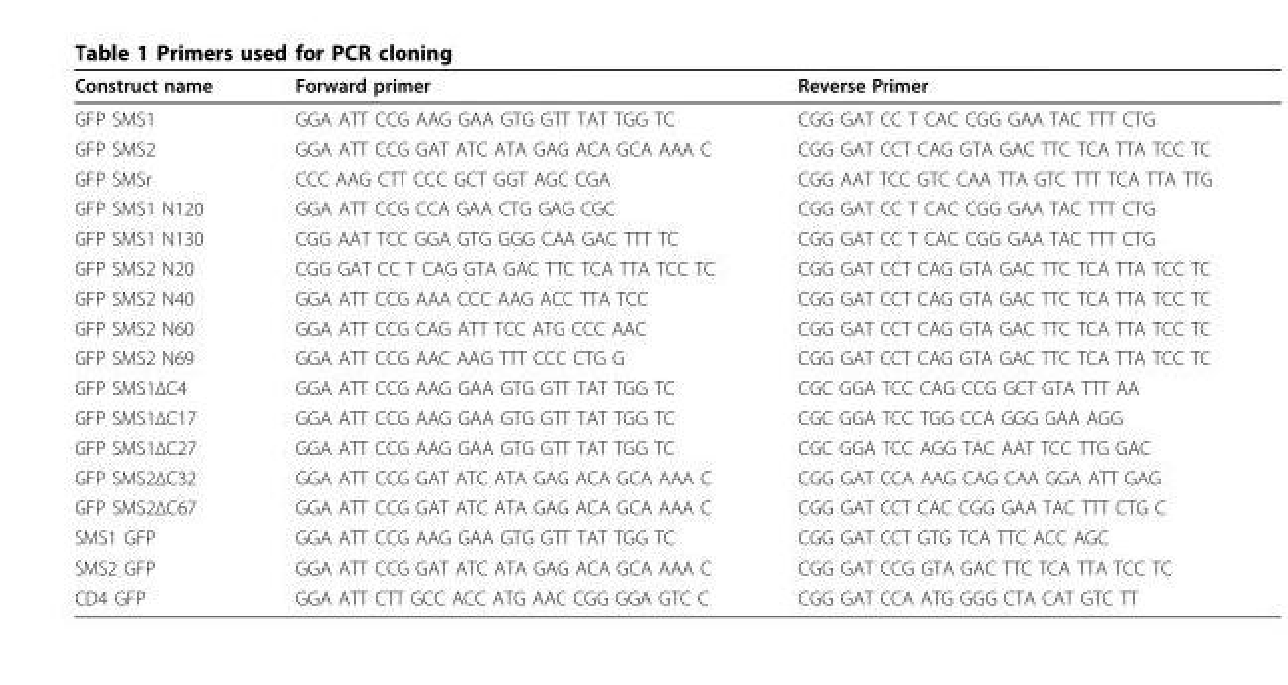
<table><thead><tr><td>Construct name</td><td>Forward primer</td><td>Reverse Primer</td></tr></thead><tbody><tr><td>GFP SMS1</td><td>GGA ATT CCG AAG GAA GTG GTT TAT TGG TC</td><td>CGG GAT CC T CAC CGG GAA TAC TTT CTG</td></tr><tr><td>GFP SMS2</td><td>GGA ATT CCG GAT ATC ATA GAG ACA GCA AAA C</td><td>CGG GAT CCT CAG GTA GAC TTC TCA TTA TCC TC</td></tr><tr><td>GFP SMSr</td><td>CCC AAG CTT CCC GCT GGT AGC CGA</td><td>CGG AAT TCC GTC CAA TTA GTC TTT TCA TTA TTG</td></tr><tr><td>GFP SMS1 N120</td><td>GGA ATT CCG CCA GAA CTG GAG CGC</td><td>CGG GAT CC T CAC CGG GAA TAC TTT CTG</td></tr><tr><td>GFP SMS1 N130</td><td>CGG AAT TCC GGA GTG GGG CAA GAC TTT TC</td><td>CGG GAT CC T CAC CGG GAA TAC TTT CTG</td></tr><tr><td>GFP SMS2 N20</td><td>CGG GAT CC T CAG GTA GAC TTC TCA TTA TCC TC</td><td>CGG GAT CCT CAG GTA GAC TTC TCA TTA TCC TC</td></tr><tr><td>GFP SMS2 N40</td><td>GGA ATT CCG AAA CCC AAG ACC TTA TCC</td><td>CGG GAT CCT CAG GTA GAC TTC TCA TTA TCC TC</td></tr><tr><td>GFP SMS2 N60</td><td>GGA ATT CCG CAG ATT TCC ATG CCC AAC</td><td>CGG GAT CCT CAG GTA GAC TTC TCA TTA TCC TC</td></tr><tr><td>GFP SMS2 N69</td><td>GGA ATT CCG AAC AAG TTT CCC CTG G</td><td>CGG GAT CCT CAG GTA GAC TTC TCA TTA TCC TC</td></tr><tr><td>GFP SMS1ΔC4</td><td>GGA ATT CCG AAG GAA GTG GTT TAT TGG TC</td><td>CGC GGA TCC CAG CCG GCT GTA TTT AA</td></tr><tr><td>GFP SMS1ΔC17</td><td>GGA ATT CCG AAG GAA GTG GTT TAT TGG TC</td><td>CGC GGA TCC TGG CCA GGG GAA AGG</td></tr><tr><td>GFP SMS1ΔC27</td><td>GGA ATT CCG AAG GAA GTG GTT TAT TGG TC</td><td>CGC GGA TCC AGG TAC AAT TCC TTG GAC</td></tr><tr><td>GFP SMS2ΔC32</td><td>GGA ATT CCG GAT ATC ATA GAG ACA GCA AAA C</td><td>CGG GAT CCA AAG CAG CAA GGA ATT GAG</td></tr><tr><td>GFP SMS2ΔC67</td><td>GGA ATT CCG GAT ATC ATA GAG ACA GCA AAA C</td><td>CGG GAT CCT CAC CGG GAA TAC TTT CTG C</td></tr><tr><td>SMS1 GFP</td><td>GGA ATT CCG AAG GAA GTG GTT TAT TGG TC</td><td>CGG GAT CCT GTG TCA TTC ACC AGC</td></tr><tr><td>SMS2 GFP</td><td>GGA ATT CCG GAT ATC ATA GAG ACA GCA AAA C</td><td>CGG GAT CCG GTA GAC TTC TCA TTA TCC TC</td></tr><tr><td>CD4 GFP</td><td>GGA ATT CTT GCC ACC ATG AAC CGG GGA GTC C</td><td>CGG GAT CCA ATG GGG CTA CAT GTC TT</td></tr></tbody></table>